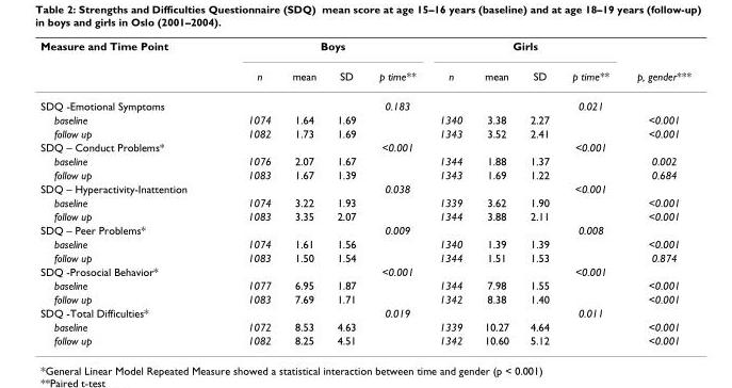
<table><thead><tr><td rowspan="2">Measure and Time Point</td><td colspan="4">Boys</td><td colspan="4">Girls</td><td rowspan="2">p, gender***</td></tr><tr><td>n</td><td>mean</td><td>SD</td><td>p time**</td><td>n</td><td>mean</td><td>SD</td><td>p time**</td></tr></thead><tbody><tr><td>SDQ -Emotional Symptoms</td><td></td><td></td><td></td><td>0.183</td><td></td><td></td><td></td><td>0.021</td><td></td></tr><tr><td>baseline</td><td>1074</td><td>1.64</td><td>1.69</td><td></td><td>1340</td><td>3.38</td><td>2.27</td><td></td><td>&lt;0.001</td></tr><tr><td>follow up</td><td>1082</td><td>1.73</td><td>1.69</td><td></td><td>1343</td><td>3.52</td><td>2.41</td><td></td><td>&lt;0.001</td></tr><tr><td>SDQ – Conduct Problems*</td><td></td><td></td><td></td><td>&lt;0.001</td><td></td><td></td><td></td><td>&lt;0.001</td><td></td></tr><tr><td>baseline</td><td>1076</td><td>2.07</td><td>1.67</td><td></td><td>1344</td><td>1.88</td><td>1.37</td><td></td><td>0.002</td></tr><tr><td>follow up</td><td>1083</td><td>1.67</td><td>1.39</td><td></td><td>1343</td><td>1.69</td><td>1.22</td><td></td><td>0.684</td></tr><tr><td>SDQ – Hyperactivity-Inattention</td><td></td><td></td><td></td><td>0.038</td><td></td><td></td><td></td><td>&lt;0.001</td><td></td></tr><tr><td>baseline</td><td>1074</td><td>3.22</td><td>1.93</td><td></td><td>1339</td><td>3.62</td><td>1.90</td><td></td><td>&lt;0.001</td></tr><tr><td>follow up</td><td>1083</td><td>3.35</td><td>2.07</td><td></td><td>1344</td><td>3.88</td><td>2.11</td><td></td><td>&lt;0.001</td></tr><tr><td>SDQ – Peer Problems*</td><td></td><td></td><td></td><td>0.009</td><td></td><td></td><td></td><td>0.008</td><td></td></tr><tr><td>baseline</td><td>1074</td><td>1.61</td><td>1.56</td><td></td><td>1340</td><td>1.39</td><td>1.39</td><td></td><td>&lt;0.001</td></tr><tr><td>follow up</td><td>1083</td><td>1.50</td><td>1.54</td><td></td><td>1344</td><td>1.51</td><td>1.53</td><td></td><td>0.874</td></tr><tr><td>SDQ -Prosocial Behavior*</td><td></td><td></td><td></td><td>&lt;0.001</td><td></td><td></td><td></td><td>&lt;0.001</td><td></td></tr><tr><td>baseline</td><td>1077</td><td>6.95</td><td>1.87</td><td></td><td>1344</td><td>7.98</td><td>1.55</td><td></td><td>&lt;0.001</td></tr><tr><td>follow up</td><td>1083</td><td>7.69</td><td>1.71</td><td></td><td>1342</td><td>8.38</td><td>1.40</td><td></td><td>&lt;0.001</td></tr><tr><td>SDQ -Total Difficulties*</td><td></td><td></td><td></td><td>0.019</td><td></td><td></td><td></td><td>0.011</td><td></td></tr><tr><td>baseline</td><td>1072</td><td>8.53</td><td>4.63</td><td></td><td>1339</td><td>10.27</td><td>4.64</td><td></td><td>&lt;0.001</td></tr><tr><td>follow up</td><td>1082</td><td>8.25</td><td>4.51</td><td></td><td>1342</td><td>10.60</td><td>5.12</td><td></td><td>&lt;0.001</td></tr></tbody></table>